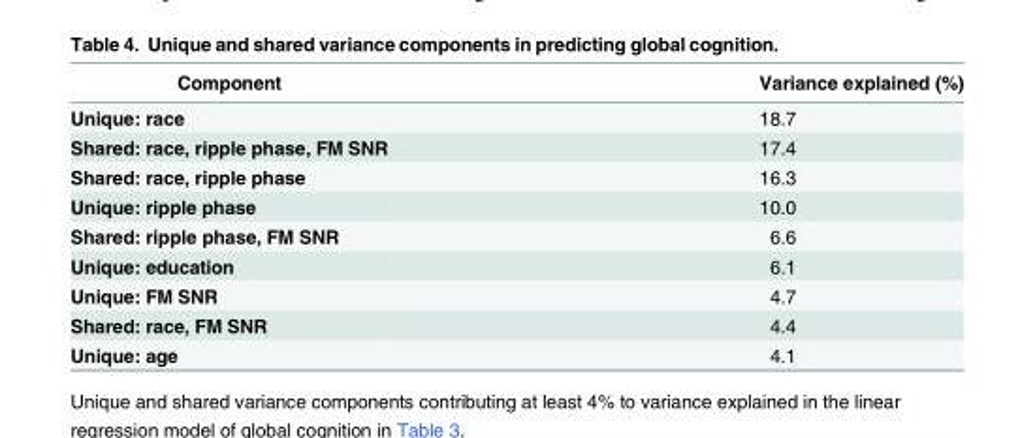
<table><thead><tr><td>Component</td><td>Variance explained (%)</td></tr></thead><tbody><tr><td>Unique: race</td><td>18.7</td></tr><tr><td>Shared: race, ripple phase, FM SNR</td><td>17.4</td></tr><tr><td>Shared: race, ripple phase</td><td>16.3</td></tr><tr><td>Unique: ripple phase</td><td>10.0</td></tr><tr><td>Shared: ripple phase, FM SNR</td><td>6.6</td></tr><tr><td>Unique: education</td><td>6.1</td></tr><tr><td>Unique: FM SNR</td><td>4.7</td></tr><tr><td>Shared: race, FM SNR</td><td>4.4</td></tr><tr><td>Unique: age</td><td>4.1</td></tr></tbody></table>